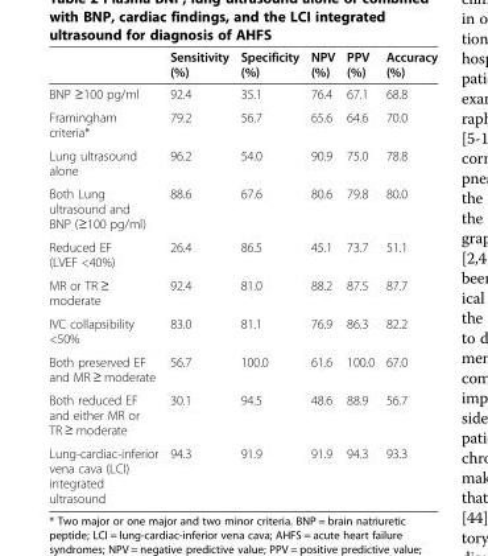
<table><thead><tr><td></td><td>Sensitivity (%)</td><td>Specificity (%)</td><td>NPV (%)</td><td>PPV (%)</td><td>Accuracy (%)</td></tr></thead><tbody><tr><td>BNP ≥100 pg/ml</td><td>92.4</td><td>35.1</td><td>76.4</td><td>67.1</td><td>68.8</td></tr><tr><td>Framingham criteria*</td><td>79.2</td><td>56.7</td><td>65.6</td><td>64.6</td><td>70.0</td></tr><tr><td>Lung ultrasound alone</td><td>96.2</td><td>54.0</td><td>90.9</td><td>75.0</td><td>78.8</td></tr><tr><td>Both Lung ultrasound and BNP (≥100 pg/ml)</td><td>88.6</td><td>67.6</td><td>80.6</td><td>79.8</td><td>80.0</td></tr><tr><td>Reduced EF (LVEF &lt;40%)</td><td>26.4</td><td>86.5</td><td>45.1</td><td>73.7</td><td>51.1</td></tr><tr><td>MR or TR ≥ moderate</td><td>92.4</td><td>81.0</td><td>88.2</td><td>87.5</td><td>87.7</td></tr><tr><td>IVC collapsibility &lt;50%</td><td>83.0</td><td>81.1</td><td>76.9</td><td>86.3</td><td>82.2</td></tr><tr><td>Both preserved EF and MR ≥ moderate</td><td>56.7</td><td>100.0</td><td>61.6</td><td>100.0</td><td>67.0</td></tr><tr><td>Both reduced EF and either MR or TR ≥ moderate</td><td>30.1</td><td>94.5</td><td>48.6</td><td>88.9</td><td>56.7</td></tr><tr><td>Lung-cardiac-inferior vena cava (LCI) integrated ultrasound</td><td>94.3</td><td>91.9</td><td>91.9</td><td>94.3</td><td>93.3</td></tr></tbody></table>